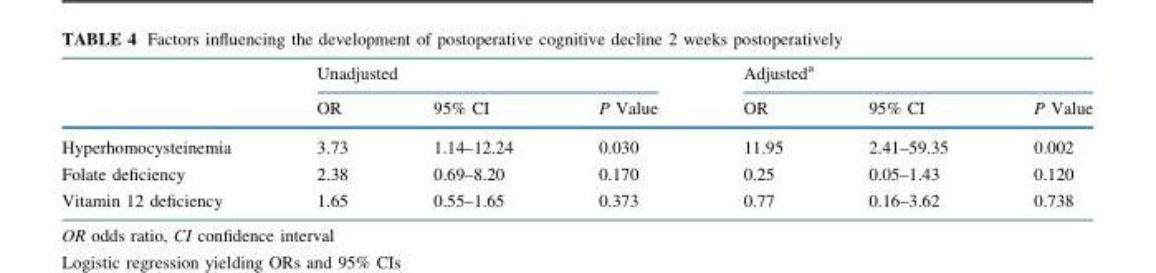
<table><thead><tr><td rowspan="2"></td><td colspan="3">Unadjusted</td><td colspan="3">Adjusted<sup>a</sup></td></tr><tr><td>OR</td><td>95% CI</td><td>P Value</td><td>OR</td><td>95% CI</td><td>P Value</td></tr></thead><tbody><tr><td>Hyperhomocysteinemia</td><td>3.73</td><td>1.14–12.24</td><td>0.030</td><td>11.95</td><td>2.41–59.35</td><td>0.002</td></tr><tr><td>Folate deficiency</td><td>2.38</td><td>0.69–8.20</td><td>0.170</td><td>0.25</td><td>0.05–1.43</td><td>0.120</td></tr><tr><td>Vitamin 12 deficiency</td><td>1.65</td><td>0.55–1.65</td><td>0.373</td><td>0.77</td><td>0.16–3.62</td><td>0.738</td></tr></tbody></table>